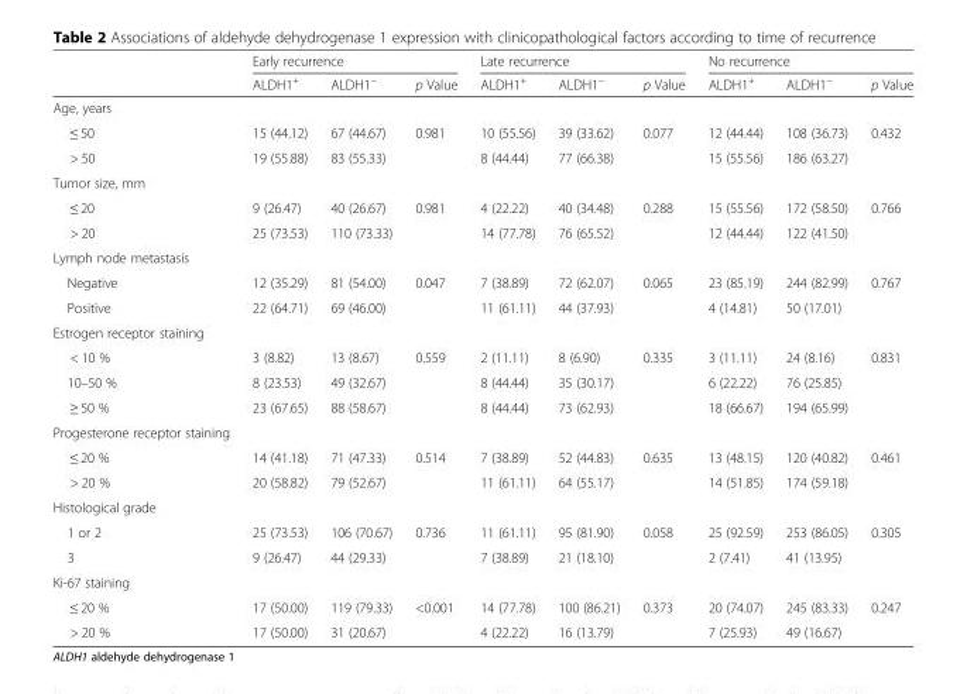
<table><thead><tr><td rowspan="2"></td><td colspan="3">Early recurrence</td><td colspan="3">Late recurrence</td><td colspan="3">No recurrence</td></tr><tr><td>ALDH1<sup>+</sup></td><td>ALDH1<sup>−</sup></td><td>p Value</td><td>ALDH1<sup>+</sup></td><td>ALDH1<sup>−</sup></td><td>p Value</td><td>ALDH1<sup>+</sup></td><td>ALDH1<sup>−</sup></td><td>p Value</td></tr></thead><tbody><tr><td colspan="10">Age, years</td></tr><tr><td>≤ 50</td><td>15 (44.12)</td><td>67 (44.67)</td><td>0.981</td><td>10 (55.56)</td><td>39 (33.62)</td><td>0.077</td><td>12 (44.44)</td><td>108 (36.73)</td><td>0.432</td></tr><tr><td>&gt; 50</td><td>19 (55.88)</td><td>83 (55.33)</td><td></td><td>8 (44.44)</td><td>77 (66.38)</td><td></td><td>15 (55.56)</td><td colspan="2">186 (63.27)</td></tr><tr><td colspan="10">Tumor size, mm</td></tr><tr><td>≤ 20</td><td>9 (26.47)</td><td>40 (26.67)</td><td>0.981</td><td>4 (22.22)</td><td>40 (34.48)</td><td>0.288</td><td>15 (55.56)</td><td>172 (58.50)</td><td>0.766</td></tr><tr><td>&gt; 20</td><td>25 (73.53)</td><td>110 (73.33)</td><td></td><td>14 (77.78)</td><td>76 (65.52)</td><td></td><td>12 (44.44)</td><td colspan="2">122 (41.50)</td></tr><tr><td colspan="10">Lymph node metastasis</td></tr><tr><td>Negative</td><td>12 (35.29)</td><td>81 (54.00)</td><td>0.047</td><td>7 (38.89)</td><td>72 (62.07)</td><td>0.065</td><td>23 (85.19)</td><td>244 (82.99)</td><td>0.767</td></tr><tr><td>Positive</td><td>22 (64.71)</td><td>69 (46.00)</td><td></td><td>11 (61.11)</td><td>44 (37.93)</td><td></td><td>4 (14.81)</td><td>50 (17.01)</td><td></td></tr><tr><td colspan="10">Estrogen receptor staining</td></tr><tr><td>&lt; 10 %</td><td>3 (8.82)</td><td>13 (8.67)</td><td>0.559</td><td>2 (11.11)</td><td>8 (6.90)</td><td>0.335</td><td>3 (11.11)</td><td>24 (8.16)</td><td>0.831</td></tr><tr><td>10–50 %</td><td>8 (23.53)</td><td>49 (32.67)</td><td></td><td>8 (44.44)</td><td>35 (30.17)</td><td></td><td>6 (22.22)</td><td>76 (25.85)</td><td></td></tr><tr><td>≥ 50 %</td><td>23 (67.65)</td><td>88 (58.67)</td><td></td><td>8 (44.44)</td><td>73 (62.93)</td><td></td><td>18 (66.67)</td><td colspan="2">194 (65.99)</td></tr><tr><td colspan="10">Progesterone receptor staining</td></tr><tr><td>≤ 20 %</td><td>14 (41.18)</td><td>71 (47.33)</td><td>0.514</td><td>7 (38.89)</td><td>52 (44.83)</td><td>0.635</td><td>13 (48.15)</td><td>120 (40.82)</td><td>0.461</td></tr><tr><td>&gt; 20 %</td><td>20 (58.82)</td><td>79 (52.67)</td><td></td><td>11 (61.11)</td><td>64 (55.17)</td><td></td><td>14 (51.85)</td><td colspan="2">174 (59.18)</td></tr><tr><td colspan="10">Histological grade</td></tr><tr><td>1 or 2</td><td>25 (73.53)</td><td>106 (70.67)</td><td>0.736</td><td>11 (61.11)</td><td>95 (81.90)</td><td>0.058</td><td>25 (92.59)</td><td>253 (86.05)</td><td>0.305</td></tr><tr><td>3</td><td>9 (26.47)</td><td>44 (29.33)</td><td></td><td>7 (38.89)</td><td>21 (18.10)</td><td></td><td>2 (7.41)</td><td>41 (13.95)</td><td></td></tr><tr><td colspan="10">Ki-67 staining</td></tr><tr><td>≤ 20 %</td><td>17 (50.00)</td><td>119 (79.33)</td><td>&lt;0.001</td><td>14 (77.78)</td><td>100 (86.21)</td><td>0.373</td><td>20 (74.07)</td><td>245 (83.33)</td><td>0.247</td></tr><tr><td>&gt; 20 %</td><td>17 (50.00)</td><td>31 (20.67)</td><td></td><td>4 (22.22)</td><td>16 (13.79)</td><td></td><td>7 (25.93)</td><td>49 (16.67)</td><td></td></tr></tbody></table>